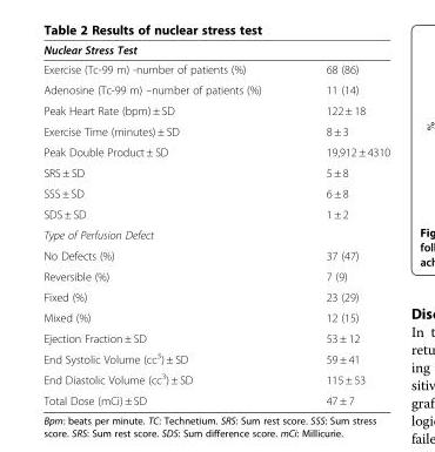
<table><thead><tr><td>Nuclear Stress Test</td><td></td></tr></thead><tbody><tr><td>Exercise (Tc-99 m) -number of patients (%)</td><td>68 (86)</td></tr><tr><td>Adenosine (Tc-99 m) –number of patients (%)</td><td>11 (14)</td></tr><tr><td>Peak Heart Rate (bpm) ± SD</td><td>122 ± 18</td></tr><tr><td>Exercise Time (minutes) ± SD</td><td>8 ± 3</td></tr><tr><td>Peak Double Product ± SD</td><td>19,912 ± 4310</td></tr><tr><td>SRS ± SD</td><td>5 ± 8</td></tr><tr><td>SSS ± SD</td><td>6 ± 8</td></tr><tr><td>SDS ± SD</td><td>1 ± 2</td></tr><tr><td colspan="2">Type of Perfusion Defect</td></tr><tr><td>No Defects (%)</td><td>37 (47)</td></tr><tr><td>Reversible (%)</td><td>7 (9)</td></tr><tr><td>Fixed (%)</td><td>23 (29)</td></tr><tr><td>Mixed (%)</td><td>12 (15)</td></tr><tr><td>Ejection Fraction ± SD</td><td>53 ± 12</td></tr><tr><td>End Systolic Volume (cc<sup>3</sup>) ± SD</td><td>59 ± 41</td></tr><tr><td>End Diastolic Volume (cc<sup>3</sup>) ± SD</td><td>115 ± 53</td></tr><tr><td>Total Dose (mCi) ± SD</td><td>47 ± 7</td></tr></tbody></table>